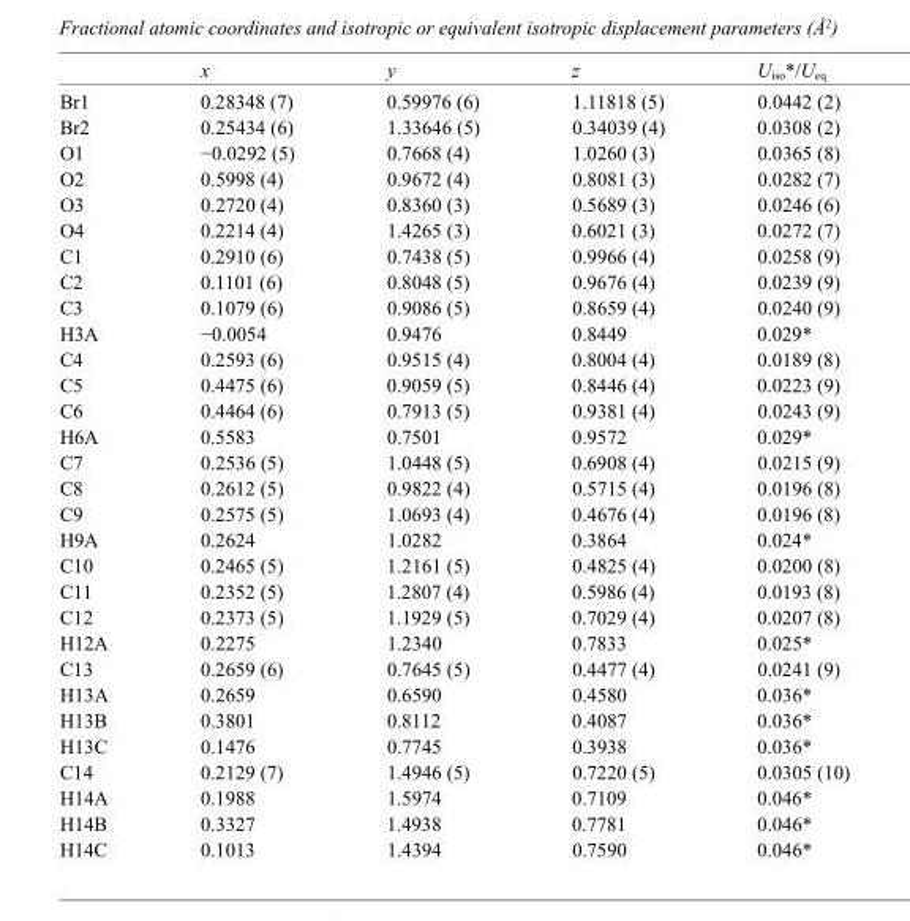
<table><thead><tr><td></td><td>x</td><td>y</td><td>z</td><td>U<sub>iso</sub>*/U<sub>eq</sub></td></tr></thead><tbody><tr><td>Br1</td><td>0.28348 (7)</td><td>0.59976 (6)</td><td>1.11818 (5)</td><td>0.0442 (2)</td></tr><tr><td>Br2</td><td>0.25434 (6)</td><td>1.33646 (5)</td><td>0.34039 (4)</td><td>0.0308 (2)</td></tr><tr><td>O1</td><td>−0.0292 (5)</td><td>0.7668 (4)</td><td>1.0260 (3)</td><td>0.0365 (8)</td></tr><tr><td>O2</td><td>0.5998 (4)</td><td>0.9672 (4)</td><td>0.8081 (3)</td><td>0.0282 (7)</td></tr><tr><td>O3</td><td>0.2720 (4)</td><td>0.8360 (3)</td><td>0.5689 (3)</td><td>0.0246 (6)</td></tr><tr><td>O4</td><td>0.2214 (4)</td><td>1.4265 (3)</td><td>0.6021 (3)</td><td>0.0272 (7)</td></tr><tr><td>C1</td><td>0.2910 (6)</td><td>0.7438 (5)</td><td>0.9966 (4)</td><td>0.0258 (9)</td></tr><tr><td>C2</td><td>0.1101 (6)</td><td>0.8048 (5)</td><td>0.9676 (4)</td><td>0.0239 (9)</td></tr><tr><td>C3</td><td>0.1079 (6)</td><td>0.9086 (5)</td><td>0.8659 (4)</td><td>0.0240 (9)</td></tr><tr><td>H3A</td><td>−0.0054</td><td>0.9476</td><td>0.8449</td><td>0.029*</td></tr><tr><td>C4</td><td>0.2593 (6)</td><td>0.9515 (4)</td><td>0.8004 (4)</td><td>0.0189 (8)</td></tr><tr><td>C5</td><td>0.4475 (6)</td><td>0.9059 (5)</td><td>0.8446 (4)</td><td>0.0223 (9)</td></tr><tr><td>C6</td><td>0.4464 (6)</td><td>0.7913 (5)</td><td>0.9381 (4)</td><td>0.0243 (9)</td></tr><tr><td>H6A</td><td>0.5583</td><td>0.7501</td><td>0.9572</td><td>0.029*</td></tr><tr><td>C7</td><td>0.2536 (5)</td><td>1.0448 (5)</td><td>0.6908 (4)</td><td>0.0215 (9)</td></tr><tr><td>C8</td><td>0.2612 (5)</td><td>0.9822 (4)</td><td>0.5715 (4)</td><td>0.0196 (8)</td></tr><tr><td>C9</td><td>0.2575 (5)</td><td>1.0693 (4)</td><td>0.4676 (4)</td><td>0.0196 (8)</td></tr><tr><td>H9A</td><td>0.2624</td><td>1.0282</td><td>0.3864</td><td>0.024*</td></tr><tr><td>C10</td><td>0.2465 (5)</td><td>1.2161 (5)</td><td>0.4825 (4)</td><td>0.0200 (8)</td></tr><tr><td>C11</td><td>0.2352 (5)</td><td>1.2807 (4)</td><td>0.5986 (4)</td><td>0.0193 (8)</td></tr><tr><td>C12</td><td>0.2373 (5)</td><td>1.1929 (5)</td><td>0.7029 (4)</td><td>0.0207 (8)</td></tr><tr><td>H12A</td><td>0.2275</td><td>1.2340</td><td>0.7833</td><td>0.025*</td></tr><tr><td>C13</td><td>0.2659 (6)</td><td>0.7645 (5)</td><td>0.4477 (4)</td><td>0.0241 (9)</td></tr><tr><td>H13A</td><td>0.2659</td><td>0.6590</td><td>0.4580</td><td>0.036*</td></tr><tr><td>H13B</td><td>0.3801</td><td>0.8112</td><td>0.4087</td><td>0.036*</td></tr><tr><td>H13C</td><td>0.1476</td><td>0.7745</td><td>0.3938</td><td>0.036*</td></tr><tr><td>C14</td><td>0.2129 (7)</td><td>1.4946 (5)</td><td>0.7220 (5)</td><td>0.0305 (10)</td></tr><tr><td>H14A</td><td>0.1988</td><td>1.5974</td><td>0.7109</td><td>0.046*</td></tr><tr><td>H14B</td><td>0.3327</td><td>1.4938</td><td>0.7781</td><td>0.046*</td></tr><tr><td>H14C</td><td>0.1013</td><td>1.4394</td><td>0.7590</td><td>0.046*</td></tr></tbody></table>